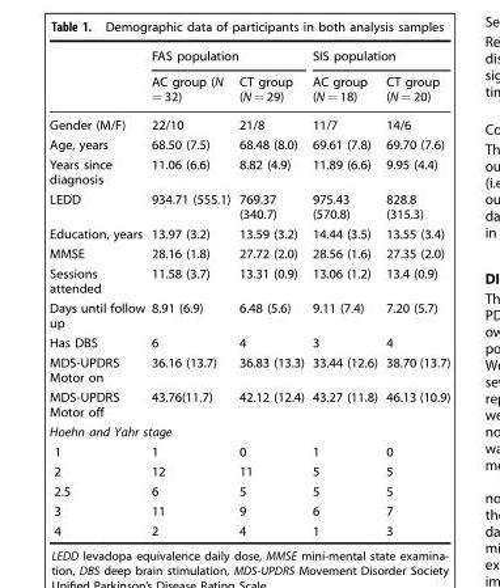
<table><thead><tr><td rowspan="2"></td><td colspan="2">FAS population</td><td colspan="2">SIS population</td></tr><tr><td>AC group (N = 32)</td><td>CT group (N = 29)</td><td>AC group (N = 18)</td><td>CT group (N = 20)</td></tr></thead><tbody><tr><td>Gender (M/F)</td><td>22/10</td><td>21/8</td><td>11/7</td><td>14/6</td></tr><tr><td>Age, years</td><td>68.50 (7.5)</td><td>68.48 (8.0)</td><td>69.61 (7.8)</td><td>69.70 (7.6)</td></tr><tr><td>Years since diagnosis</td><td>11.06 (6.6)</td><td>8.82 (4.9)</td><td>11.89 (6.6)</td><td>9.95 (4.4)</td></tr><tr><td>LEDD</td><td>934.71 (555.1)</td><td>769.37 (340.7)</td><td>975.43 (570.8)</td><td>828.8 (315.3)</td></tr><tr><td>Education, years</td><td>13.97 (3.2)</td><td>13.59 (3.2)</td><td>14.44 (3.5)</td><td>13.55 (3.4)</td></tr><tr><td>MMSE</td><td>28.16 (1.8)</td><td>27.72 (2.0)</td><td>28.56 (1.6)</td><td>27.35 (2.0)</td></tr><tr><td>Sessions attended</td><td>11.58 (3.7)</td><td>13.31 (0.9)</td><td>13.06 (1.2)</td><td>13.4 (0.9)</td></tr><tr><td>Days until follow up</td><td>8.91 (6.9)</td><td>6.48 (5.6)</td><td>9.11 (7.4)</td><td>7.20 (5.7)</td></tr><tr><td>Has DBS</td><td>6</td><td>4</td><td>3</td><td>4</td></tr><tr><td>MDS-UPDRS Motor on</td><td>36.16 (13.7)</td><td>36.83 (13.3)</td><td>33.44 (12.6)</td><td>38.70 (13.7)</td></tr><tr><td>MDS-UPDRS Motor off</td><td>43.76(11.7)</td><td>42.12 (12.4)</td><td>43.27 (11.8)</td><td>46.13 (10.9)</td></tr><tr><td colspan="5">Hoehn and Yahr stage</td></tr><tr><td>1</td><td>1</td><td>0</td><td>1</td><td>0</td></tr><tr><td>2</td><td>12</td><td>11</td><td>5</td><td>5</td></tr><tr><td>2.5</td><td>6</td><td>5</td><td>5</td><td>5</td></tr><tr><td>3</td><td>11</td><td>9</td><td>6</td><td>7</td></tr><tr><td>4</td><td>2</td><td>4</td><td>1</td><td>3</td></tr></tbody></table>